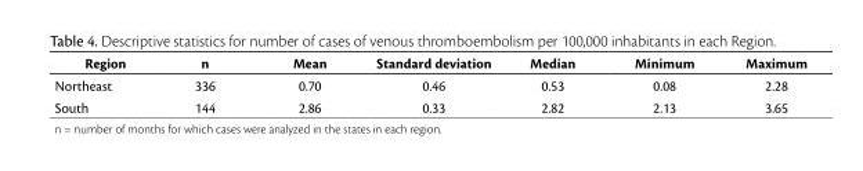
<table><thead><tr><td>Region</td><td>n</td><td>Mean</td><td>Standard deviation</td><td>Median</td><td>Minimum</td><td>Maximum</td></tr></thead><tbody><tr><td>Northeast</td><td>336</td><td>0.70</td><td>0.46</td><td>0.53</td><td>0.08</td><td>2.28</td></tr><tr><td>South</td><td>144</td><td>2.86</td><td>0.33</td><td>2.82</td><td>2.13</td><td>3.65</td></tr></tbody></table>